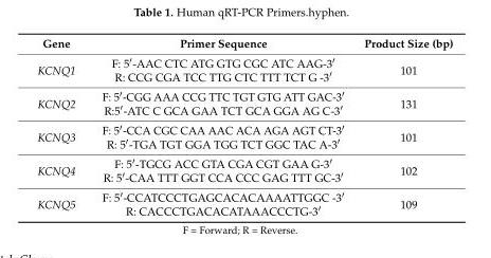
<table><thead><tr><td>Gene</td><td>Primer Sequence</td><td>Product Size (bp)</td></tr></thead><tbody><tr><td>KCNQ1</td><td>F: 5′-AAC CTC ATG GTG CGC ATC AAG-3′ R: CCG CGA TCC TTG CTC TTT TCT G -3′</td><td>101</td></tr><tr><td>KCNQ2</td><td>F: 5′-CGG AAA CCG TTC TGT GTG ATT GAC-3′ R:5′-ATC C GCA GAA TCT GCA GGA AG C-3′</td><td>131</td></tr><tr><td>KCNQ3</td><td>F: 5′-CCA CGC CAA AAC ACA AGA AGT CT-3′ R: 5′-TGA TGT GGA TGG TCT GGC TAC A-3′</td><td>101</td></tr><tr><td>KCNQ4</td><td>F: 5′-TGCG ACC GTA CGA CGT GAA G-3′ R: 5′-CAA TTT GGT CCA CCC GAG TTT GC-3′</td><td>102</td></tr><tr><td>KCNQ5</td><td>F: 5′-CCATCCCTGAGCACACAAAATTGGC -3′ R: CACCCTGACACATAAACCCTG-3′</td><td>109</td></tr></tbody></table>